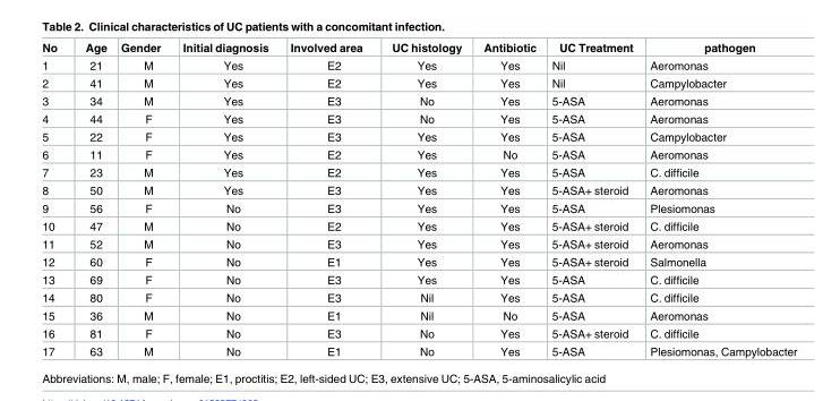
<table><thead><tr><td>No</td><td>Age</td><td>Gender</td><td>Initial diagnosis</td><td>Involved area</td><td>UC histology</td><td>Antibiotic</td><td>UC Treatment</td><td>pathogen</td></tr></thead><tbody><tr><td>1</td><td>21</td><td>M</td><td>Yes</td><td>E2</td><td>Yes</td><td>Yes</td><td>Nil</td><td>Aeromonas</td></tr><tr><td>2</td><td>41</td><td>M</td><td>Yes</td><td>E2</td><td>Yes</td><td>Yes</td><td>Nil</td><td>Campylobacter</td></tr><tr><td>3</td><td>34</td><td>M</td><td>Yes</td><td>E3</td><td>No</td><td>Yes</td><td>5-ASA</td><td>Aeromonas</td></tr><tr><td>4</td><td>44</td><td>F</td><td>Yes</td><td>E3</td><td>No</td><td>Yes</td><td>5-ASA</td><td>Aeromonas</td></tr><tr><td>5</td><td>22</td><td>F</td><td>Yes</td><td>E3</td><td>Yes</td><td>Yes</td><td>5-ASA</td><td>Campylobacter</td></tr><tr><td>6</td><td>11</td><td>F</td><td>Yes</td><td>E2</td><td>Yes</td><td>No</td><td>5-ASA</td><td>Aeromonas</td></tr><tr><td>7</td><td>23</td><td>M</td><td>Yes</td><td>E2</td><td>Yes</td><td>Yes</td><td>5-ASA</td><td>C. difficile</td></tr><tr><td>8</td><td>50</td><td>M</td><td>Yes</td><td>E3</td><td>Yes</td><td>Yes</td><td>5-ASA+ steroid</td><td>Aeromonas</td></tr><tr><td>9</td><td>56</td><td>F</td><td>No</td><td>E3</td><td>Yes</td><td>Yes</td><td>5-ASA</td><td>Plesiomonas</td></tr><tr><td>10</td><td>47</td><td>M</td><td>No</td><td>E2</td><td>Yes</td><td>Yes</td><td>5-ASA+ steroid</td><td>C. difficile</td></tr><tr><td>11</td><td>52</td><td>M</td><td>No</td><td>E3</td><td>Yes</td><td>Yes</td><td>5-ASA+ steroid</td><td>Aeromonas</td></tr><tr><td>12</td><td>60</td><td>F</td><td>No</td><td>E1</td><td>Yes</td><td>Yes</td><td>5-ASA+ steroid</td><td>Salmonella</td></tr><tr><td>13</td><td>69</td><td>F</td><td>No</td><td>E3</td><td>Yes</td><td>Yes</td><td>5-ASA</td><td>C. difficile</td></tr><tr><td>14</td><td>80</td><td>F</td><td>No</td><td>E3</td><td>Nil</td><td>Yes</td><td>5-ASA</td><td>C. difficile</td></tr><tr><td>15</td><td>36</td><td>M</td><td>No</td><td>E1</td><td>Nil</td><td>No</td><td>5-ASA</td><td>Aeromonas</td></tr><tr><td>16</td><td>81</td><td>F</td><td>No</td><td>E3</td><td>No</td><td>Yes</td><td>5-ASA+ steroid</td><td>C. difficile</td></tr><tr><td>17</td><td>63</td><td>M</td><td>No</td><td>E1</td><td>No</td><td>Yes</td><td>5-ASA</td><td>Plesiomonas, Campylobacter</td></tr></tbody></table>